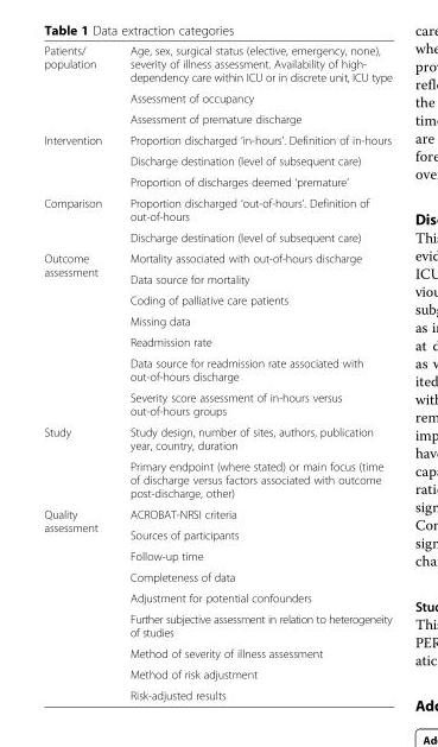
<table><tbody><tr><td rowspan="3">Patients/ population</td><td>Age, sex, surgical status (elective, emergency, none), severity of illness assessment. Availability of high- dependency care within ICU or in discrete unit, ICU type</td></tr><tr><td>Assessment of occupancy</td></tr><tr><td>Assessment of premature discharge</td></tr><tr><td rowspan="3">Intervention</td><td>Proportion discharged ‘in-hours’. Definition of in-hours</td></tr><tr><td>Discharge destination (level of subsequent care)</td></tr><tr><td>Proportion of discharges deemed ‘premature’</td></tr><tr><td rowspan="2">Comparison</td><td>Proportion discharged ‘out-of-hours’. Definition of out-of-hours</td></tr><tr><td>Discharge destination (level of subsequent care)</td></tr><tr><td rowspan="7">Outcome assessment</td><td>Mortality associated with out-of-hours discharge</td></tr><tr><td>Data source for mortality</td></tr><tr><td>Coding of palliative care patients</td></tr><tr><td>Missing data</td></tr><tr><td>Readmission rate</td></tr><tr><td>Data source for readmission rate associated with out-of-hours discharge</td></tr><tr><td>Severity score assessment of in-hours versus out-of-hours groups</td></tr><tr><td rowspan="2">Study</td><td>Study design, number of sites, authors, publication year, country, duration</td></tr><tr><td>Primary endpoint (where stated) or main focus (time of discharge versus factors associated with outcome post-discharge, other)</td></tr><tr><td rowspan="9">Quality assessment</td><td>ACROBAT-NRSI criteria</td></tr><tr><td>Sources of participants</td></tr><tr><td>Follow-up time</td></tr><tr><td>Completeness of data</td></tr><tr><td>Adjustment for potential confounders</td></tr><tr><td>Further subjective assessment in relation to heterogeneity of studies</td></tr><tr><td>Method of severity of illness assessment</td></tr><tr><td>Method of risk adjustment</td></tr><tr><td>Risk-adjusted results</td></tr></tbody></table>